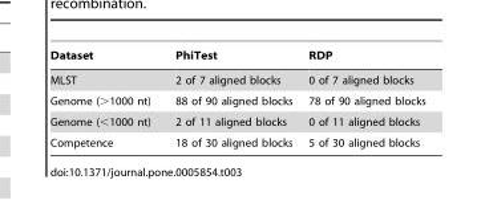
<table><thead><tr><td>Dataset</td><td>PhiTest</td><td>RDP</td></tr></thead><tbody><tr><td>MLST</td><td>2 of 7 aligned blocks</td><td>0 of 7 aligned blocks</td></tr><tr><td>Genome (&gt;1000 nt)</td><td>88 of 90 aligned blocks</td><td>78 of 90 aligned blocks</td></tr><tr><td>Genome (&lt;1000 nt)</td><td>2 of 11 aligned blocks</td><td>0 of 11 aligned blocks</td></tr><tr><td>Competence</td><td>18 of 30 aligned blocks</td><td>5 of 30 aligned blocks</td></tr></tbody></table>